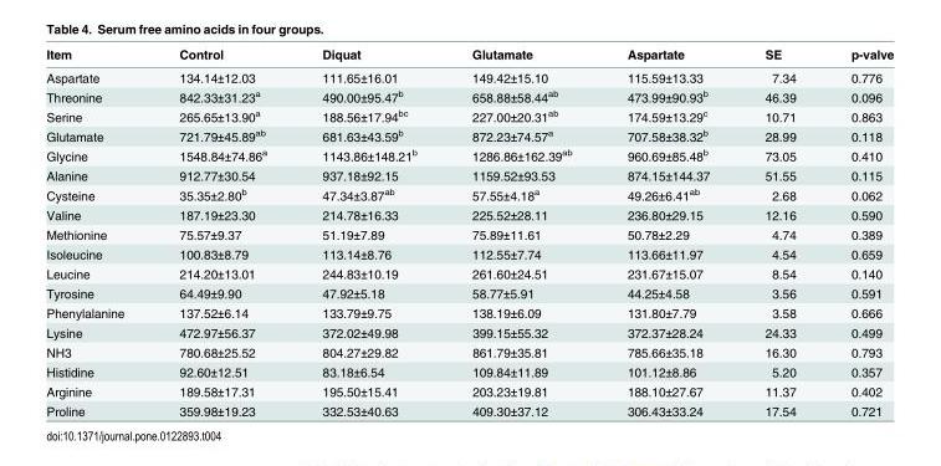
<table><thead><tr><td>Item</td><td>Control</td><td>Diquat</td><td>Glutamate</td><td>Aspartate</td><td>SE</td><td>p-valve</td></tr></thead><tbody><tr><td>Aspartate</td><td>134.14±12.03</td><td>111.65±16.01</td><td>149.42±15.10</td><td>115.59±13.33</td><td>7.34</td><td>0.776</td></tr><tr><td>Threonine</td><td>842.33±31.23<sup>a</sup></td><td>490.00±95.47<sup>b</sup></td><td>658.88±58.44<sup>ab</sup></td><td>473.99±90.93<sup>b</sup></td><td>46.39</td><td>0.096</td></tr><tr><td>Serine</td><td>265.65±13.90<sup>a</sup></td><td>188.56±17.94<sup>bc</sup></td><td>227.00±20.31<sup>ab</sup></td><td>174.59±13.29<sup>c</sup></td><td>10.71</td><td>0.863</td></tr><tr><td>Glutamate</td><td>721.79±45.89<sup>ab</sup></td><td>681.63±43.59<sup>b</sup></td><td>872.23±74.57<sup>a</sup></td><td>707.58±38.32<sup>b</sup></td><td>28.99</td><td>0.118</td></tr><tr><td>Glycine</td><td>1548.84±74.86<sup>a</sup></td><td>1143.86±148.21<sup>b</sup></td><td>1286.86±162.39<sup>ab</sup></td><td>960.69±85.48<sup>b</sup></td><td>73.05</td><td>0.410</td></tr><tr><td>Alanine</td><td>912.77±30.54</td><td>937.18±92.15</td><td>1159.52±93.53</td><td>874.15±144.37</td><td>51.55</td><td>0.115</td></tr><tr><td>Cysteine</td><td>35.35±2.80<sup>b</sup></td><td>47.34±3.87<sup>ab</sup></td><td>57.55±4.18<sup>a</sup></td><td>49.26±6.41<sup>ab</sup></td><td>2.68</td><td>0.062</td></tr><tr><td>Valine</td><td>187.19±23.30</td><td>214.78±16.33</td><td>225.52±28.11</td><td>236.80±29.15</td><td>12.16</td><td>0.590</td></tr><tr><td>Methionine</td><td>75.57±9.37</td><td>51.19±7.89</td><td>75.89±11.61</td><td>50.78±2.29</td><td>4.74</td><td>0.389</td></tr><tr><td>Isoleucine</td><td>100.83±8.79</td><td>113.14±8.76</td><td>112.55±7.74</td><td>113.66±11.97</td><td>4.54</td><td>0.659</td></tr><tr><td>Leucine</td><td>214.20±13.01</td><td>244.83±10.19</td><td>261.60±24.51</td><td>231.67±15.07</td><td>8.54</td><td>0.140</td></tr><tr><td>Tyrosine</td><td>64.49±9.90</td><td>47.92±5.18</td><td>58.77±5.91</td><td>44.25±4.58</td><td>3.56</td><td>0.591</td></tr><tr><td>Phenylalanine</td><td>137.52±6.14</td><td>133.79±9.75</td><td>138.19±6.09</td><td>131.80±7.79</td><td>3.58</td><td>0.666</td></tr><tr><td>Lysine</td><td>472.97±56.37</td><td>372.02±49.98</td><td>399.15±55.32</td><td>372.37±28.24</td><td>24.33</td><td>0.499</td></tr><tr><td>NH3</td><td>780.68±25.52</td><td>804.27±29.82</td><td>861.79±35.81</td><td>785.66±35.18</td><td>16.30</td><td>0.793</td></tr><tr><td>Histidine</td><td>92.60±12.51</td><td>83.18±6.54</td><td>109.84±11.89</td><td>101.12±8.86</td><td>5.20</td><td>0.357</td></tr><tr><td>Arginine</td><td>189.58±17.31</td><td>195.50±15.41</td><td>203.23±19.81</td><td>188.10±27.67</td><td>11.37</td><td>0.402</td></tr><tr><td>Proline</td><td>359.98±19.23</td><td>332.53±40.63</td><td>409.30±37.12</td><td>306.43±33.24</td><td>17.54</td><td>0.721</td></tr></tbody></table>